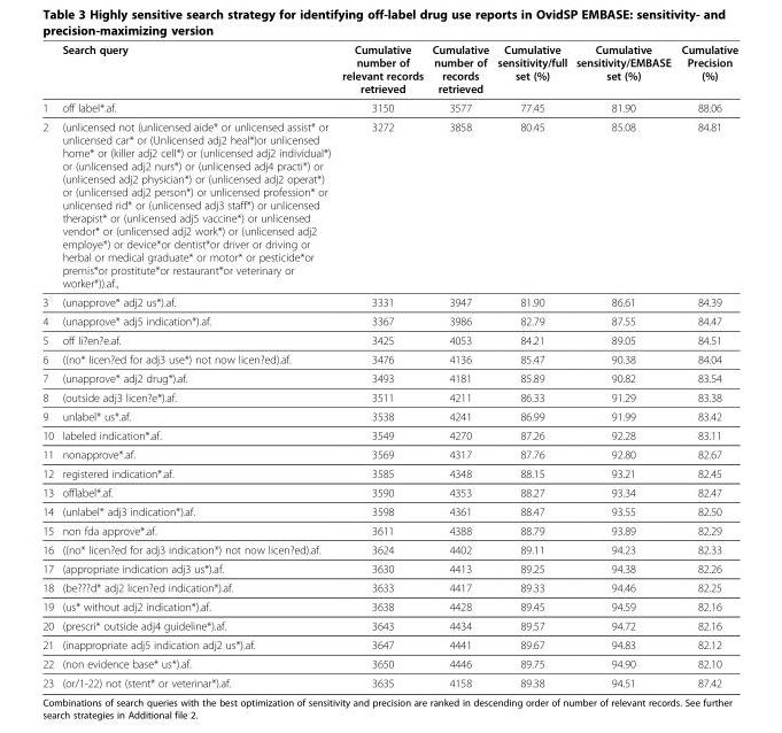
<table><thead><tr><td></td><td>Search query</td><td>Cumulative number of relevant records retrieved</td><td>Cumulative number of records retrieved</td><td>Cumulative sensitivity/full set (%)</td><td>Cumulative sensitivity/EMBASE set (%)</td><td>Cumulative Precision (%)</td></tr></thead><tbody><tr><td>1</td><td>off label*.af.</td><td>3150</td><td>3577</td><td>77.45</td><td>81.90</td><td>88.06</td></tr><tr><td>2</td><td>(unlicensed not (unlicensed aide* or unlicensed assist* or unlicensed car* or (Unlicensed adj2 heal*)or unlicensed home* or (killer adj2 cell*) or (unlicensed adj2 individual*) or (unlicensed adj2 nurs*) or (unlicensed adj4 practi*) or (unlicensed adj2 physician*) or (unlicensed adj2 operat*) or (unlicensed adj2 person*) or unlicensed profession* or unlicensed rid* or (unlicensed adj3 staff*) or unlicensed therapist* or (unlicensed adj5 vaccine*) or unlicensed vendor* or (unlicensed adj2 work*) or (unlicensed adj2 employe*) or device*or dentist*or driver or driving or herbal or medical graduate* or motor* or pesticide*or premis*or prostitute*or restaurant*or veterinary or worker*)).af.,</td><td>3272</td><td>3858</td><td>80.45</td><td>85.08</td><td>84.81</td></tr><tr><td>3</td><td>(unapprove* adj2 us*).af.</td><td>3331</td><td>3947</td><td>81.90</td><td>86.61</td><td>84.39</td></tr><tr><td>4</td><td>(unapprove* adj5 indication*).af.</td><td>3367</td><td>3986</td><td>82.79</td><td>87.55</td><td>84.47</td></tr><tr><td>5</td><td>off li?en?e.af.</td><td>3425</td><td>4053</td><td>84.21</td><td>89.05</td><td>84.51</td></tr><tr><td>6</td><td>((no* licen?ed for adj3 use*) not now licen?ed).af.</td><td>3476</td><td>4136</td><td>85.47</td><td>90.38</td><td>84.04</td></tr><tr><td>7</td><td>(unapprove* adj2 drug*).af.</td><td>3493</td><td>4181</td><td>85.89</td><td>90.82</td><td>83.54</td></tr><tr><td>8</td><td>(outside adj3 licen?e*).af.</td><td>3511</td><td>4211</td><td>86.33</td><td>91.29</td><td>83.38</td></tr><tr><td>9</td><td>unlabel* us*.af.</td><td>3538</td><td>4241</td><td>86.99</td><td>91.99</td><td>83.42</td></tr><tr><td>10</td><td>labeled indication*.af.</td><td>3549</td><td>4270</td><td>87.26</td><td>92.28</td><td>83.11</td></tr><tr><td>11</td><td>nonapprove*.af.</td><td>3569</td><td>4317</td><td>87.76</td><td>92.80</td><td>82.67</td></tr><tr><td>12</td><td>registered indication*.af.</td><td>3585</td><td>4348</td><td>88.15</td><td>93.21</td><td>82.45</td></tr><tr><td>13</td><td>offlabel*.af.</td><td>3590</td><td>4353</td><td>88.27</td><td>93.34</td><td>82.47</td></tr><tr><td>14</td><td>(unlabel* adj3 indication*).af.</td><td>3598</td><td>4361</td><td>88.47</td><td>93.55</td><td>82.50</td></tr><tr><td>15</td><td>non fda approve*.af.</td><td>3611</td><td>4388</td><td>88.79</td><td>93.89</td><td>82.29</td></tr><tr><td>16</td><td>((no* licen?ed for adj3 indication*) not now licen?ed).af.</td><td>3624</td><td>4402</td><td>89.11</td><td>94.23</td><td>82.33</td></tr><tr><td>17</td><td>(appropriate indication adj3 us*).af.</td><td>3630</td><td>4413</td><td>89.25</td><td>94.38</td><td>82.26</td></tr><tr><td>18</td><td>(be???d* adj2 licen?ed indication*).af.</td><td>3633</td><td>4417</td><td>89.33</td><td>94.46</td><td>82.25</td></tr><tr><td>19</td><td>(us* without adj2 indication*).af.</td><td>3638</td><td>4428</td><td>89.45</td><td>94.59</td><td>82.16</td></tr><tr><td>20</td><td>(prescri* outside adj4 guideline*).af.</td><td>3643</td><td>4434</td><td>89.57</td><td>94.72</td><td>82.16</td></tr><tr><td>21</td><td>(inappropriate adj5 indication adj2 us*).af.</td><td>3647</td><td>4441</td><td>89.67</td><td>94.83</td><td>82.12</td></tr><tr><td>22</td><td>(non evidence base* us*).af.</td><td>3650</td><td>4446</td><td>89.75</td><td>94.90</td><td>82.10</td></tr><tr><td>23</td><td>(or/1-22) not (stent* or veterinar*).af.</td><td>3635</td><td>4158</td><td>89.38</td><td>94.51</td><td>87.42</td></tr></tbody></table>